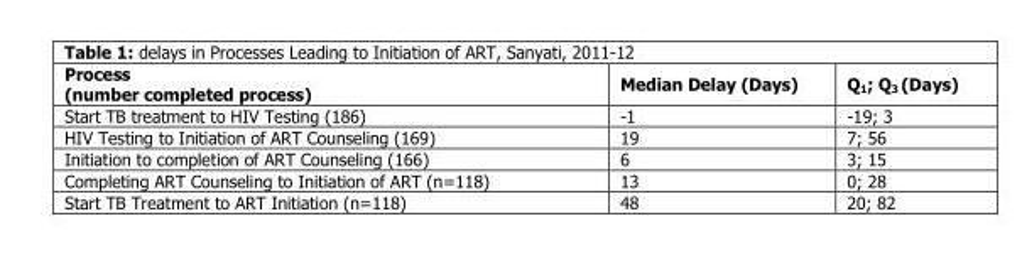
<table><thead><tr><td>Process (number completed process)</td><td>Median Delay (Days)</td><td>Q<sub>1</sub>; Q<sub>3</sub> (Days)</td></tr></thead><tbody><tr><td>Start TB treatment to HIV Testing (186)</td><td>-1</td><td>-19; 3</td></tr><tr><td>HIV Testing to Initiation of ART Counseling (169)</td><td>19</td><td>7; 56</td></tr><tr><td>Initiation to completion of ART Counseling (166)</td><td>6</td><td>3; 15</td></tr><tr><td>Completing ART Counseling to Initiation of ART (n=118)</td><td>13</td><td>0; 28</td></tr><tr><td>Start TB Treatment to ART Initiation (n=118)</td><td>48</td><td>20; 82</td></tr></tbody></table>